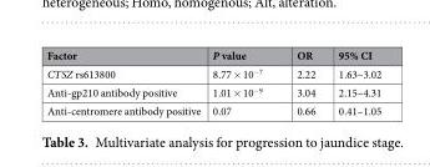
<table><thead><tr><td>Factor</td><td>P value</td><td>OR</td><td>95% CI</td></tr></thead><tbody><tr><td>CTSZ rs613800</td><td>8.77 × 10<sup>−7</sup></td><td>2.22</td><td>1.63–3.02</td></tr><tr><td>Anti-gp210 antibody positive</td><td>1.01 × 10<sup>−9</sup></td><td>3.04</td><td>2.15–4.31</td></tr><tr><td>Anti-centromere antibody positive</td><td>0.07</td><td>0.66</td><td>0.41–1.05</td></tr></tbody></table>